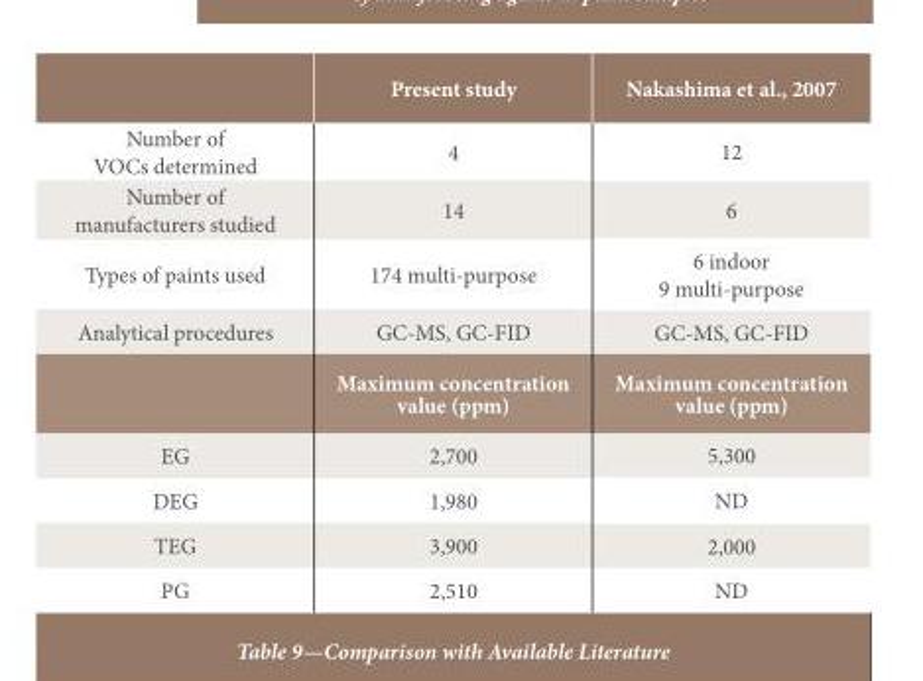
<table><thead><tr><td></td><td>Present study</td><td>Nakashima et al., 2007</td></tr></thead><tbody><tr><td>Number of VOCs determined</td><td>4</td><td>12</td></tr><tr><td>Number of manufacturers studied</td><td>14</td><td>6</td></tr><tr><td>Types of paints used</td><td>174 multi-purpose</td><td>6 indoor 9 multi-purpose</td></tr><tr><td rowspan="2">Analytical procedures</td><td>GC-MS, GC-FID</td><td>GC-MS, GC-FID</td></tr><tr><td>Maximum concentration value (ppm)</td><td>Maximum concentration value (ppm)</td></tr><tr><td>EG</td><td>2,700</td><td>5,300</td></tr><tr><td>DEG</td><td>1,980</td><td>ND</td></tr><tr><td>TEG</td><td>3,900</td><td>2,000</td></tr><tr><td>PG</td><td>2,510</td><td>ND</td></tr></tbody></table>